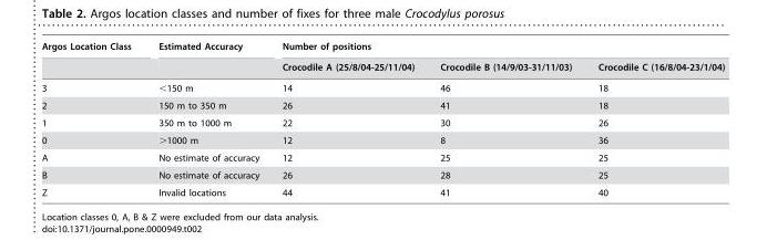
<table><thead><tr><td rowspan="2">Argos Location Class</td><td rowspan="2">Estimated Accuracy</td><td colspan="3">Number of positions</td></tr><tr><td>Crocodile A (25/8/04-25/11/04)</td><td>Crocodile B (14/9/03-31/11/03)</td><td>Crocodile C (16/8/04-23/1/04)</td></tr></thead><tbody><tr><td>3</td><td>&lt;150 m</td><td>14</td><td>46</td><td>18</td></tr><tr><td>2</td><td>150 m to 350 m</td><td>26</td><td>41</td><td>18</td></tr><tr><td>1</td><td>350 m to 1000 m</td><td>22</td><td>30</td><td>26</td></tr><tr><td>0</td><td>&gt;1000 m</td><td>12</td><td>8</td><td>36</td></tr><tr><td>A</td><td>No estimate of accuracy</td><td>12</td><td>25</td><td>25</td></tr><tr><td>B</td><td>No estimate of accuracy</td><td>26</td><td>28</td><td>25</td></tr><tr><td>Z</td><td>Invalid locations</td><td>44</td><td>41</td><td>40</td></tr></tbody></table>